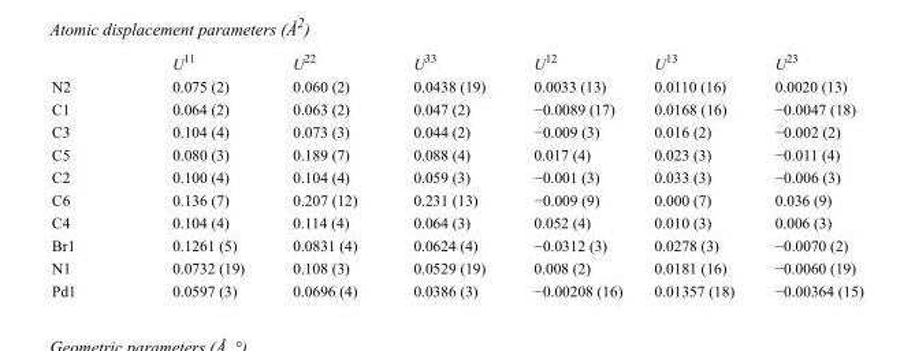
<table><thead><tr><td></td><td>U<sup>11</sup></td><td>U<sup>22</sup></td><td>U<sup>33</sup></td><td>U<sup>12</sup></td><td>U<sup>13</sup></td><td>U<sup>23</sup></td></tr></thead><tbody><tr><td>N2</td><td>0.075 (2)</td><td>0.060 (2)</td><td>0.0438 (19)</td><td>0.0033 (13)</td><td>0.0110 (16)</td><td>0.0020 (13)</td></tr><tr><td>C1</td><td>0.064 (2)</td><td>0.063 (2)</td><td>0.047 (2)</td><td>−0.0089 (17)</td><td>0.0168 (16)</td><td>−0.0047 (18)</td></tr><tr><td>C3</td><td>0.104 (4)</td><td>0.073 (3)</td><td>0.044 (2)</td><td>−0.009 (3)</td><td>0.016 (2)</td><td>−0.002 (2)</td></tr><tr><td>C5</td><td>0.080 (3)</td><td>0.189 (7)</td><td>0.088 (4)</td><td>0.017 (4)</td><td>0.023 (3)</td><td>−0.011 (4)</td></tr><tr><td>C2</td><td>0.100 (4)</td><td>0.104 (4)</td><td>0.059 (3)</td><td>−0.001 (3)</td><td>0.033 (3)</td><td>−0.006 (3)</td></tr><tr><td>C6</td><td>0.136 (7)</td><td>0.207 (12)</td><td>0.231 (13)</td><td>−0.009 (9)</td><td>0.000 (7)</td><td>0.036 (9)</td></tr><tr><td>C4</td><td>0.104 (4)</td><td>0.114 (4)</td><td>0.064 (3)</td><td>0.052 (4)</td><td>0.010 (3)</td><td>0.006 (3)</td></tr><tr><td>Br1</td><td>0.1261 (5)</td><td>0.0831 (4)</td><td>0.0624 (4)</td><td>−0.0312 (3)</td><td>0.0278 (3)</td><td>−0.0070 (2)</td></tr><tr><td>N1</td><td>0.0732 (19)</td><td>0.108 (3)</td><td>0.0529 (19)</td><td>0.008 (2)</td><td>0.0181 (16)</td><td>−0.0060 (19)</td></tr><tr><td>Pd1</td><td>0.0597 (3)</td><td>0.0696 (4)</td><td>0.0386 (3)</td><td>−0.00208 (16)</td><td>0.01357 (18)</td><td>−0.00364 (15)</td></tr></tbody></table>